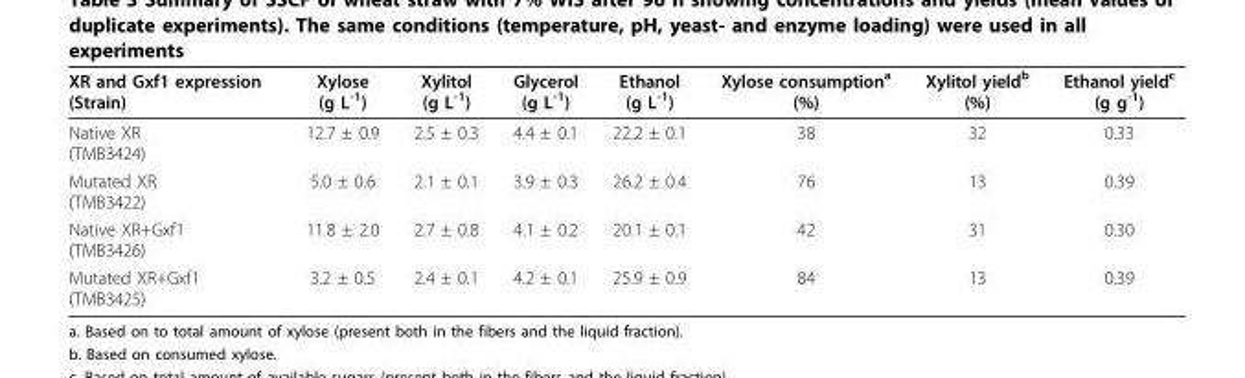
<table><thead><tr><td>XR and Gxf1 expression (Strain)</td><td>Xylose (g L<sup>-1</sup>)</td><td>Xylitol (g L<sup>-1</sup>)</td><td>Glycerol (g L<sup>-1</sup>)</td><td>Ethanol (g L<sup>-1</sup>)</td><td>Xylose consumption<sup>a</sup> (%)</td><td>Xylitol yield<sup>b</sup> (%)</td><td>Ethanol yield<sup>c</sup> (g g<sup>-1</sup>)</td></tr></thead><tbody><tr><td>Native XR (TMB3424)</td><td>12.7 ± 0.9</td><td>2.5 ± 0.3</td><td>4.4 ± 0.1</td><td>22.2 ± 0.1</td><td>38</td><td>32</td><td>0.33</td></tr><tr><td>Mutated XR (TMB3422)</td><td>5.0 ± 0.6</td><td>2.1 ± 0.1</td><td>3.9 ± 0.3</td><td>26.2 ± 0.4</td><td>76</td><td>13</td><td>0.39</td></tr><tr><td>Native XR+Gxf1 (TMB3426)</td><td>11.8 ± 2.0</td><td>2.7 ± 0.8</td><td>4.1 ± 0.2</td><td>20.1 ± 0.1</td><td>42</td><td>31</td><td>0.30</td></tr><tr><td>Mutated XR+Gxf1 (TMB3425)</td><td>3.2 ± 0.5</td><td>2.4 ± 0.1</td><td>4.2 ± 0.1</td><td>25.9 ± 0.9</td><td>84</td><td>13</td><td>0.39</td></tr></tbody></table>